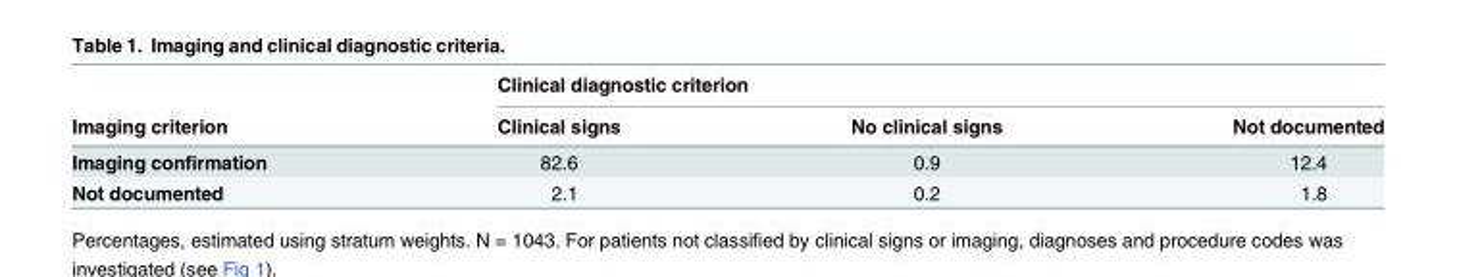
<table><thead><tr><td rowspan="2">Imaging criterion</td><td colspan="3">Clinical diagnostic criterion</td></tr><tr><td>Clinical signs</td><td>No clinical signs</td><td>Not documented</td></tr></thead><tbody><tr><td>Imaging confirmation</td><td>82.6</td><td>0.9</td><td>12.4</td></tr><tr><td>Not documented</td><td>2.1</td><td>0.2</td><td>1.8</td></tr></tbody></table>